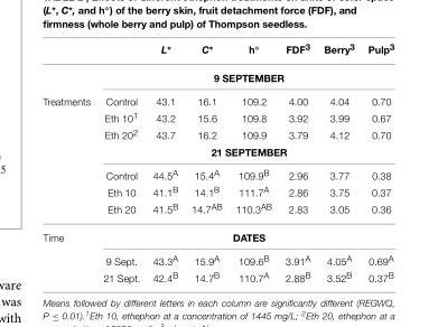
<table><thead><tr><td></td><td></td><td>L*</td><td>C*</td><td>h◦</td><td>FDF<sup>3</sup></td><td>Berry<sup>3</sup></td><td>Pulp<sup>3</sup></td></tr></thead><tbody><tr><td></td><td colspan="7">9 SEPTEMBER</td></tr><tr><td rowspan="7">Treatments</td><td>Control</td><td>43.1</td><td>16.1</td><td>109.2</td><td>4.00</td><td>4.04</td><td>0.70</td></tr><tr><td>Eth 10<sup>1</sup></td><td>43.2</td><td>15.6</td><td>109.8</td><td>3.92</td><td>3.99</td><td>0.67</td></tr><tr><td>Eth 20<sup>2</sup></td><td>43.7</td><td>16.2</td><td>109.9</td><td>3.79</td><td>4.12</td><td>0.70</td></tr><tr><td colspan="7">21 SEPTEMBER</td></tr><tr><td>Control</td><td>44.5<sup>A</sup></td><td>15.4<sup>A</sup></td><td>109.9<sup>B</sup></td><td>2.96</td><td>3.77</td><td>0.38</td></tr><tr><td>Eth 10</td><td>41.1<sup>B</sup></td><td>14.1<sup>B</sup></td><td>111.7<sup>A</sup></td><td>2.86</td><td>3.75</td><td>0.37</td></tr><tr><td>Eth 20</td><td>41.5<sup>B</sup></td><td>14.7<sup>AB</sup></td><td>110.3<sup>AB</sup></td><td>2.83</td><td>3.05</td><td>0.36</td></tr><tr><td rowspan="3">Time</td><td colspan="7">DATES</td></tr><tr><td>9 Sept.</td><td>43.3<sup>A</sup></td><td>15.9<sup>A</sup></td><td>109.6<sup>B</sup></td><td>3.91<sup>A</sup></td><td>4.05<sup>A</sup></td><td>0.69<sup>A</sup></td></tr><tr><td>21 Sept.</td><td>42.4<sup>B</sup></td><td>14.7<sup>B</sup></td><td>110.7<sup>A</sup></td><td>2.88<sup>B</sup></td><td>3.52<sup>B</sup></td><td>0.37<sup>B</sup></td></tr></tbody></table>